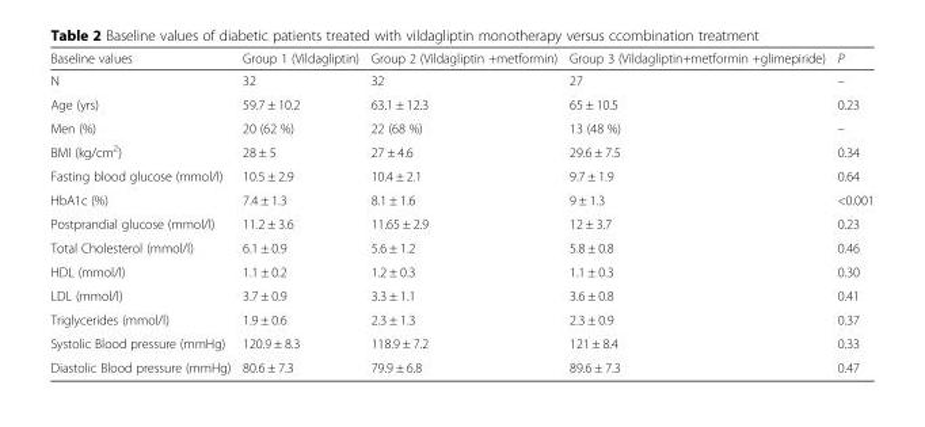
<table><thead><tr><td>Baseline values</td><td>Group 1 (Vildagliptin)</td><td>Group 2 (Vildagliptin +metformin)</td><td>Group 3 (Vildagliptin+metformin +glimepiride)</td><td>P</td></tr></thead><tbody><tr><td>N</td><td>32</td><td>32</td><td>27</td><td>–</td></tr><tr><td>Age (yrs)</td><td>59.7 ± 10.2</td><td>63.1 ± 12.3</td><td>65 ± 10.5</td><td>0.23</td></tr><tr><td>Μen (%)</td><td>20 (62 %)</td><td>22 (68 %)</td><td>13 (48 %)</td><td>–</td></tr><tr><td>BMI (kg/cm<sup>2</sup>)</td><td>28 ± 5</td><td>27 ± 4.6</td><td>29.6 ± 7.5</td><td>0.34</td></tr><tr><td>Fasting blood glucose (mmol/l)</td><td>10.5 ± 2.9</td><td>10.4 ± 2.1</td><td>9.7 ± 1.9</td><td>0.64</td></tr><tr><td>HbA1c (%)</td><td>7.4 ± 1.3</td><td>8.1 ± 1.6</td><td>9 ± 1.3</td><td>&lt;0.001</td></tr><tr><td>Postprandial glucose (mmol/l)</td><td>11.2 ± 3.6</td><td>11.65 ± 2.9</td><td>12 ± 3.7</td><td>0.23</td></tr><tr><td>Total Cholesterol (mmol/l)</td><td>6.1 ± 0.9</td><td>5.6 ± 1.2</td><td>5.8 ± 0.8</td><td>0.46</td></tr><tr><td>HDL (mmol/l)</td><td>1.1 ± 0.2</td><td>1.2 ± 0.3</td><td>1.1 ± 0.3</td><td>0.30</td></tr><tr><td>LDL (mmol/l)</td><td>3.7 ± 0.9</td><td>3.3 ± 1.1</td><td>3.6 ± 0.8</td><td>0.41</td></tr><tr><td>Triglycerides (mmol/l)</td><td>1.9 ± 0.6</td><td>2.3 ± 1.3</td><td>2.3 ± 0.9</td><td>0.37</td></tr><tr><td>Systolic Blood pressure (mmHg)</td><td>120.9 ± 8.3</td><td>118.9 ± 7.2</td><td>121 ± 8.4</td><td>0.33</td></tr><tr><td>Diastolic Blood pressure (mmHg)</td><td>80.6 ± 7.3</td><td>79.9 ± 6.8</td><td>89.6 ± 7.3</td><td>0.47</td></tr></tbody></table>